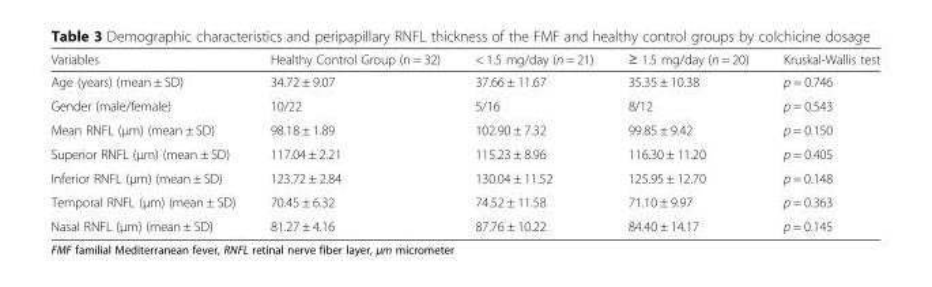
<table><thead><tr><td>Variables</td><td>Healthy Control Group (n = 32)</td><td>&lt; 1.5 mg/day (n = 21)</td><td>≥ 1.5 mg/day (n = 20)</td><td>Kruskal-Wallis test</td></tr></thead><tbody><tr><td>Age (years) (mean ± SD)</td><td>34.72 ± 9.07</td><td>37.66 ± 11.67</td><td>35.35 ± 10.38</td><td>p = 0.746</td></tr><tr><td>Gender (male/female)</td><td>10/22</td><td>5/16</td><td>8/12</td><td>p = 0.543</td></tr><tr><td>Mean RNFL (μm) (mean ± SD)</td><td>98.18 ± 1.89</td><td>102.90 ± 7.32</td><td>99.85 ± 9.42</td><td>p = 0.150</td></tr><tr><td>Superior RNFL (μm) (mean ± SD)</td><td>117.04 ± 2.21</td><td>115.23 ± 8.96</td><td>116.30 ± 11.20</td><td>p = 0.405</td></tr><tr><td>Inferior RNFL (μm) (mean ± SD)</td><td>123.72 ± 2.84</td><td>130.04 ± 11.52</td><td>125.95 ± 12.70</td><td>p = 0.148</td></tr><tr><td>Temporal RNFL (μm) (mean ± SD)</td><td>70.45 ± 6.32</td><td>74.52 ± 11.58</td><td>71.10 ± 9.97</td><td>p = 0.363</td></tr><tr><td>Nasal RNFL (μm) (mean ± SD)</td><td>81.27 ± 4.16</td><td>87.76 ± 10.22</td><td>84.40 ± 14.17</td><td>p = 0.145</td></tr></tbody></table>